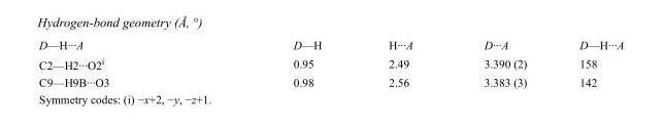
<table><tbody><tr><td>D—H···A</td><td>D—H</td><td>H···A</td><td>D···A</td><td>D—H···A</td></tr><tr><td>C2—H2···O2<sup>i</sup></td><td>0.95</td><td>2.49</td><td>3.390 (2)</td><td>158</td></tr><tr><td>C9—H9B···O3</td><td>0.98</td><td>2.56</td><td>3.383 (3)</td><td>142</td></tr></tbody></table>